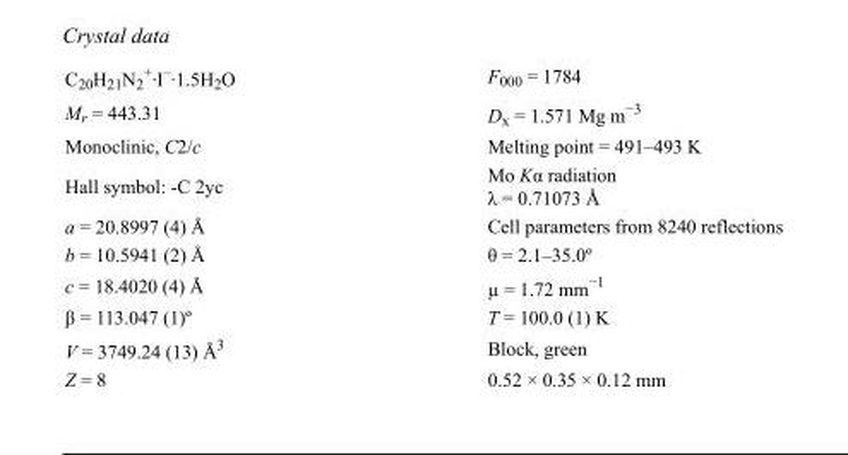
<table><tbody><tr><td>C<sub>20</sub>H<sub>21</sub>N<sub>2</sub> <sup>+</sup>·I<sup>–</sup>·1.5H<sub>2</sub>O</td><td>F<sub>000</sub> = 1784</td></tr><tr><td>M<sub>r</sub> = 443.31</td><td>D<sub>x</sub> = 1.571 Mg m<sup>−3</sup></td></tr><tr><td>Monoclinic, C2/c</td><td>Melting point = 491–493 K</td></tr><tr><td>Hall symbol: -C 2yc</td><td>Mo Kα radiation λ = 0.71073 Å</td></tr><tr><td>a = 20.8997 (4) Å</td><td>Cell parameters from 8240 reflections</td></tr><tr><td>b = 10.5941 (2) Å</td><td>θ = 2.1–35.0º</td></tr><tr><td>c = 18.4020 (4) Å</td><td>µ = 1.72 mm<sup>−1</sup></td></tr><tr><td>β = 113.047 (1)º</td><td>T = 100.0 (1) K</td></tr><tr><td>V = 3749.24 (13) Å<sup>3</sup></td><td>Block, green</td></tr><tr><td>Z = 8</td><td>0.52 × 0.35 × 0.12 mm</td></tr></tbody></table>